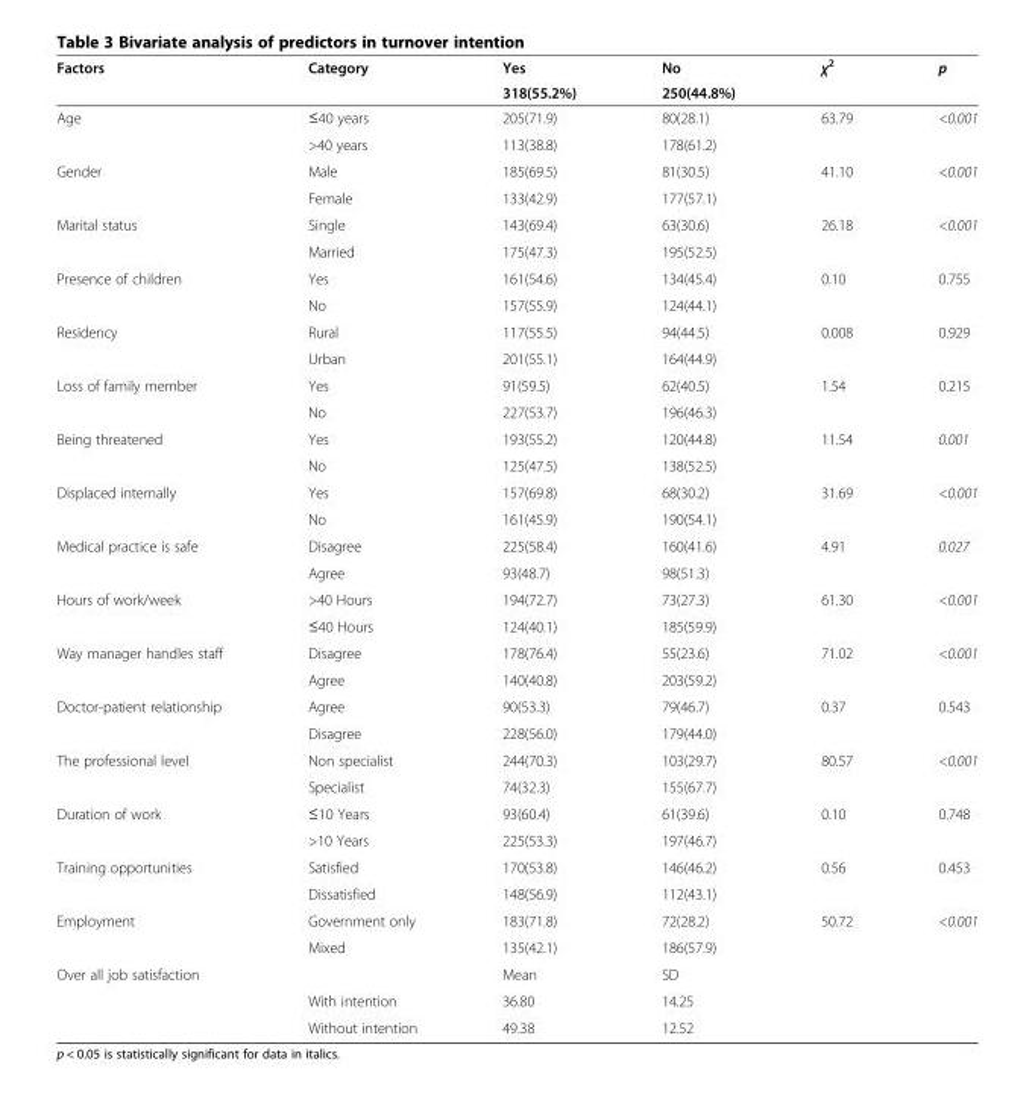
<table><thead><tr><td rowspan="2">Factors</td><td rowspan="2">Category</td><td rowspan="2">Yes 318(55.2%)</td><td rowspan="2">No 250(44.8%)</td><td rowspan="2">χ<sup>2</sup></td><td rowspan="2">p</td></tr><tr></tr></thead><tbody><tr><td rowspan="2">Age</td><td>≤40 years</td><td>205(71.9)</td><td>80(28.1)</td><td>63.79</td><td>&lt;0.001</td></tr><tr><td>&gt;40 years</td><td>113(38.8)</td><td>178(61.2)</td><td></td><td></td></tr><tr><td rowspan="2">Gender</td><td>Male</td><td>185(69.5)</td><td>81(30.5)</td><td>41.10</td><td>&lt;0.001</td></tr><tr><td>Female</td><td>133(42.9)</td><td>177(57.1)</td><td></td><td></td></tr><tr><td rowspan="2">Marital status</td><td>Single</td><td>143(69.4)</td><td>63(30.6)</td><td>26.18</td><td>&lt;0.001</td></tr><tr><td>Married</td><td>175(47.3)</td><td>195(52.5)</td><td></td><td></td></tr><tr><td rowspan="2">Presence of children</td><td>Yes</td><td>161(54.6)</td><td>134(45.4)</td><td>0.10</td><td>0.755</td></tr><tr><td>No</td><td>157(55.9)</td><td>124(44.1)</td><td></td><td></td></tr><tr><td rowspan="2">Residency</td><td>Rural</td><td>117(55.5)</td><td>94(44.5)</td><td>0.008</td><td>0.929</td></tr><tr><td>Urban</td><td>201(55.1)</td><td>164(44.9)</td><td></td><td></td></tr><tr><td rowspan="2">Loss of family member</td><td>Yes</td><td>91(59.5)</td><td>62(40.5)</td><td>1.54</td><td>0.215</td></tr><tr><td>No</td><td>227(53.7)</td><td>196(46.3)</td><td></td><td></td></tr><tr><td rowspan="2">Being threatened</td><td>Yes</td><td>193(55.2)</td><td>120(44.8)</td><td>11.54</td><td>0.001</td></tr><tr><td>No</td><td>125(47.5)</td><td>138(52.5)</td><td></td><td></td></tr><tr><td rowspan="2">Displaced internally</td><td>Yes</td><td>157(69.8)</td><td>68(30.2)</td><td>31.69</td><td>&lt;0.001</td></tr><tr><td>No</td><td>161(45.9)</td><td>190(54.1)</td><td></td><td></td></tr><tr><td rowspan="2">Medical practice is safe</td><td>Disagree</td><td>225(58.4)</td><td>160(41.6)</td><td>4.91</td><td>0.027</td></tr><tr><td>Agree</td><td>93(48.7)</td><td>98(51.3)</td><td></td><td></td></tr><tr><td rowspan="2">Hours of work/week</td><td>&gt;40 Hours</td><td>194(72.7)</td><td>73(27.3)</td><td>61.30</td><td>&lt;0.001</td></tr><tr><td>≤40 Hours</td><td>124(40.1)</td><td>185(59.9)</td><td></td><td></td></tr><tr><td rowspan="2">Way manager handles staff</td><td>Disagree</td><td>178(76.4)</td><td>55(23.6)</td><td>71.02</td><td>&lt;0.001</td></tr><tr><td>Agree</td><td>140(40.8)</td><td>203(59.2)</td><td></td><td></td></tr><tr><td rowspan="2">Doctor-patient relationship</td><td>Agree</td><td>90(53.3)</td><td>79(46.7)</td><td>0.37</td><td>0.543</td></tr><tr><td>Disagree</td><td>228(56.0)</td><td>179(44.0)</td><td></td><td></td></tr><tr><td rowspan="2">The professional level</td><td>Non specialist</td><td>244(70.3)</td><td>103(29.7)</td><td>80.57</td><td>&lt;0.001</td></tr><tr><td>Specialist</td><td>74(32.3)</td><td>155(67.7)</td><td></td><td></td></tr><tr><td rowspan="2">Duration of work</td><td>≤10 Years</td><td>93(60.4)</td><td>61(39.6)</td><td>0.10</td><td>0.748</td></tr><tr><td>&gt;10 Years</td><td>225(53.3)</td><td>197(46.7)</td><td></td><td></td></tr><tr><td rowspan="2">Training opportunities</td><td>Satisfied</td><td>170(53.8)</td><td>146(46.2)</td><td>0.56</td><td>0.453</td></tr><tr><td>Dissatisfied</td><td>148(56.9)</td><td>112(43.1)</td><td></td><td></td></tr><tr><td rowspan="2">Employment</td><td>Government only</td><td>183(71.8)</td><td>72(28.2)</td><td>50.72</td><td>&lt;0.001</td></tr><tr><td>Mixed</td><td>135(42.1)</td><td>186(57.9)</td><td></td><td></td></tr><tr><td rowspan="3">Over all job satisfaction</td><td></td><td>Mean</td><td>SD</td><td></td><td></td></tr><tr><td>With intention</td><td>36.80</td><td>14.25</td><td></td><td></td></tr><tr><td>Without intention</td><td>49.38</td><td>12.52</td><td></td><td></td></tr></tbody></table>